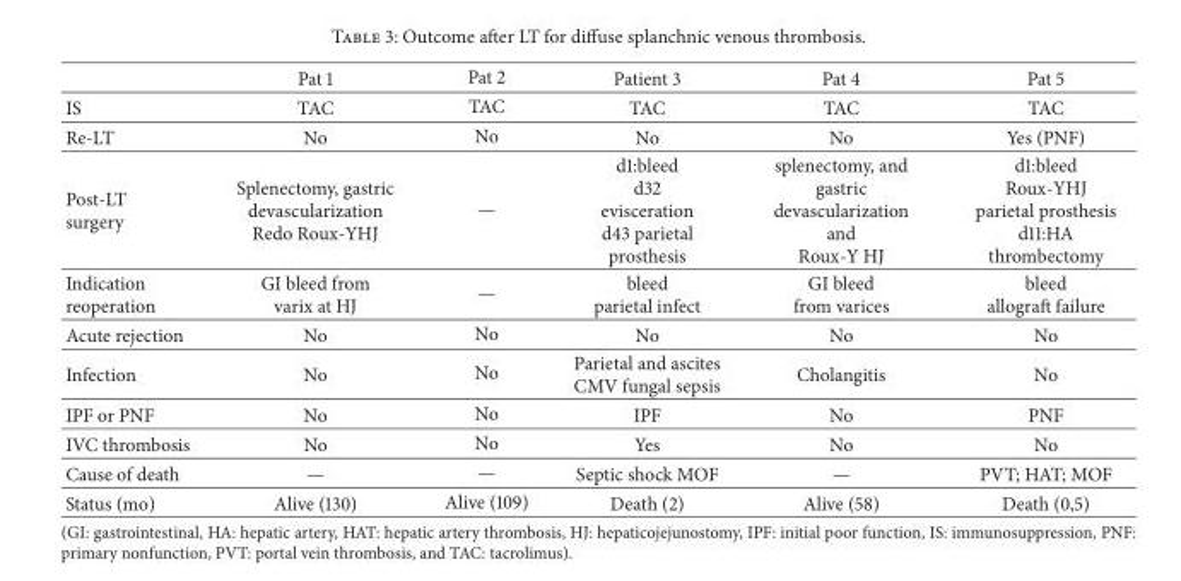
<table><thead><tr><td></td><td>Pat 1</td><td>Pat 2</td><td>Patient 3</td><td>Pat 4</td><td>Pat 5</td></tr></thead><tbody><tr><td>IS</td><td>TAC</td><td>TAC</td><td>TAC</td><td>TAC</td><td>TAC</td></tr><tr><td>Re-LT</td><td>No</td><td>No</td><td>No</td><td>No</td><td>Yes (PNF)</td></tr><tr><td>Post-LT surgery</td><td>Splenectomy, gastric devascularization Redo Roux-YHJ</td><td>—</td><td>d1:bleed d32 evisceration d43 parietal prosthesis</td><td>splenectomy, and gastric devascularization and Roux-Y HJ</td><td>d1:bleed Roux-YHJ parietal prosthesis d11:HA thrombectomy</td></tr><tr><td>Indication reoperation</td><td>GI bleed from varix at HJ</td><td>—</td><td>bleed parietal infect</td><td>GI bleed from varices</td><td>bleed allograft failure</td></tr><tr><td>Acute rejection</td><td>No</td><td>No</td><td>No</td><td>No</td><td>No</td></tr><tr><td>Infection</td><td>No</td><td>No</td><td>Parietal and ascites CMV fungal sepsis</td><td>Cholangitis</td><td>No</td></tr><tr><td>IPF or PNF</td><td>No</td><td>No</td><td>IPF</td><td>No</td><td>PNF</td></tr><tr><td>IVC thrombosis</td><td>No</td><td>No</td><td>Yes</td><td>No</td><td>No</td></tr><tr><td>Cause of death</td><td>—</td><td>—</td><td>Septic shock MOF</td><td>—</td><td>PVT; HAT; MOF</td></tr><tr><td>Status (mo)</td><td>Alive (130)</td><td>Alive (109)</td><td>Death (2)</td><td>Alive (58)</td><td>Death (0,5)</td></tr></tbody></table>